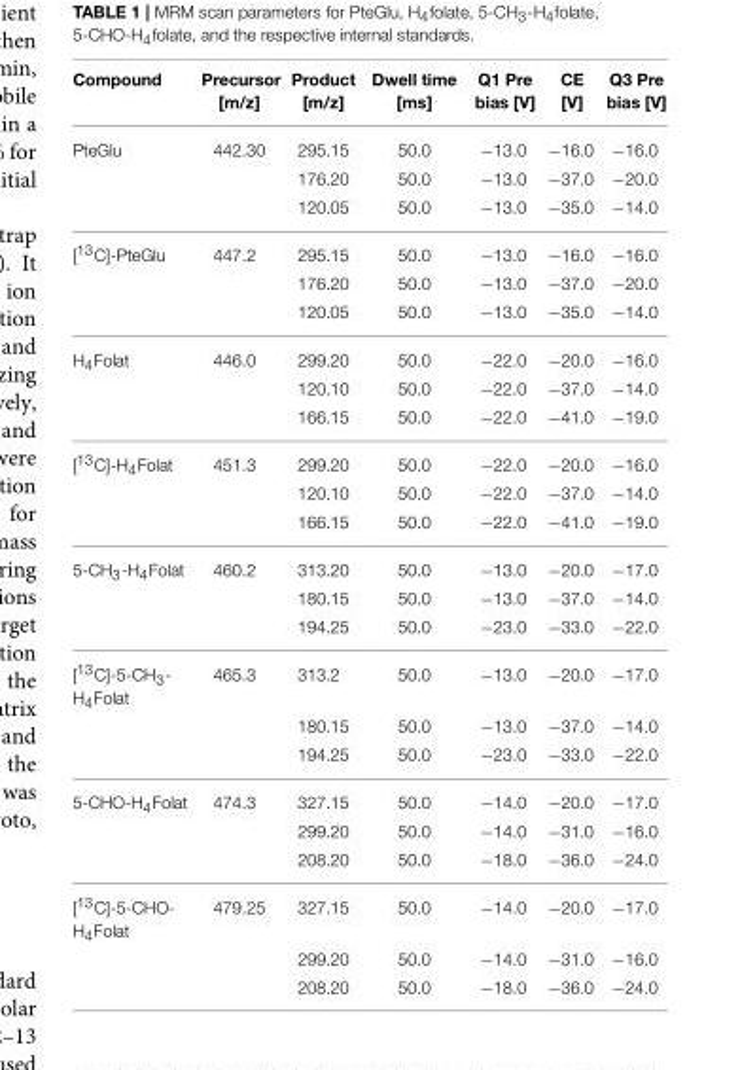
<table><thead><tr><td>Compound</td><td>Precursor [m/z]</td><td>Product [m/z]</td><td>Dwell time [ms]</td><td>Q1 Pre bias [V]</td><td>CE [V]</td><td>Q3 Pre bias [V]</td></tr></thead><tbody><tr><td rowspan="3">PteGlu</td><td>442.30</td><td>295.15</td><td>50.0</td><td>−13.0</td><td>−16.0</td><td>−16.0</td></tr><tr><td></td><td>176.20</td><td>50.0</td><td>−13.0</td><td>−37.0</td><td>−20.0</td></tr><tr><td></td><td>120.05</td><td>50.0</td><td>−13.0</td><td>−35.0</td><td>−14.0</td></tr><tr><td rowspan="3">[<sup>13</sup>C]-PteGlu</td><td>447.2</td><td>295.15</td><td>50.0</td><td>−13.0</td><td>−16.0</td><td>−16.0</td></tr><tr><td></td><td>176.20</td><td>50.0</td><td>−13.0</td><td>−37.0</td><td>−20.0</td></tr><tr><td></td><td>120.05</td><td>50.0</td><td>−13.0</td><td>−35.0</td><td>−14.0</td></tr><tr><td rowspan="3">H<sub>4</sub>Folat</td><td>446.0</td><td>299.20</td><td>50.0</td><td>−22.0</td><td>−20.0</td><td>−16.0</td></tr><tr><td></td><td>120.10</td><td>50.0</td><td>−22.0</td><td>−37.0</td><td>−14.0</td></tr><tr><td></td><td>166.15</td><td>50.0</td><td>−22.0</td><td>−41.0</td><td>−19.0</td></tr><tr><td rowspan="3">[<sup>13</sup>C]-H<sub>4</sub>Folat</td><td>451.3</td><td>299.20</td><td>50.0</td><td>−22.0</td><td>−20.0</td><td>−16.0</td></tr><tr><td></td><td>120.10</td><td>50.0</td><td>−22.0</td><td>−37.0</td><td>−14.0</td></tr><tr><td></td><td>166.15</td><td>50.0</td><td>−22.0</td><td>−41.0</td><td>−19.0</td></tr><tr><td rowspan="3">5-CH<sub>3</sub>-H<sub>4</sub>Folat</td><td>460.2</td><td>313.20</td><td>50.0</td><td>−13.0</td><td>−20.0</td><td>−17.0</td></tr><tr><td></td><td>180.15</td><td>50.0</td><td>−13.0</td><td>−37.0</td><td>−14.0</td></tr><tr><td></td><td>194.25</td><td>50.0</td><td>−23.0</td><td>−33.0</td><td>−22.0</td></tr><tr><td rowspan="3">[<sup>13</sup>C]-5-CH<sub>3</sub>- H<sub>4</sub>Folat</td><td>465.3</td><td>313.2</td><td>50.0</td><td>−13.0</td><td>−20.0</td><td>−17.0</td></tr><tr><td></td><td>180.15</td><td>50.0</td><td>−13.0</td><td>−37.0</td><td>−14.0</td></tr><tr><td></td><td>194.25</td><td>50.0</td><td>−23.0</td><td>−33.0</td><td>−22.0</td></tr><tr><td rowspan="3">5-CHO-H<sub>4</sub>Folat</td><td>474.3</td><td>327.15</td><td>50.0</td><td>−14.0</td><td>−20.0</td><td>−17.0</td></tr><tr><td></td><td>299.20</td><td>50.0</td><td>−14.0</td><td>−31.0</td><td>−16.0</td></tr><tr><td></td><td>208.20</td><td>50.0</td><td>−18.0</td><td>−36.0</td><td>−24.0</td></tr><tr><td rowspan="3">[<sup>13</sup>C]-5-CHO- H<sub>4</sub>Folat</td><td>479.25</td><td>327.15</td><td>50.0</td><td>−14.0</td><td>−20.0</td><td>−17.0</td></tr><tr><td></td><td>299.20</td><td>50.0</td><td>−14.0</td><td>−31.0</td><td>−16.0</td></tr><tr><td></td><td>208.20</td><td>50.0</td><td>−18.0</td><td>−36.0</td><td>−24.0</td></tr></tbody></table>